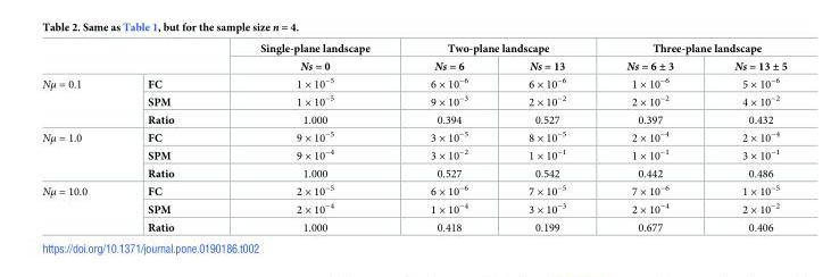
<table><thead><tr><td rowspan="2"></td><td rowspan="2"></td><td rowspan="2">Single-plane landscape Ns = 0</td><td colspan="2">Two-plane landscape</td><td colspan="2">Three-plane landscape</td></tr><tr><td>Ns = 6</td><td>Ns = 13</td><td>Ns = 6 ± 3</td><td>Ns = 13 ± 5</td></tr></thead><tbody><tr><td rowspan="3">Nμ = 0.1</td><td>FC</td><td>1 × 10<sup>−5</sup></td><td>6 × 10<sup>−6</sup></td><td>6 × 10<sup>−6</sup></td><td>1 × 10<sup>−6</sup></td><td>5 × 10<sup>−6</sup></td></tr><tr><td>SPM</td><td>1 × 10<sup>−5</sup></td><td>9 × 10<sup>−3</sup></td><td>2 × 10<sup>−2</sup></td><td>2 × 10<sup>−2</sup></td><td>4 × 10<sup>−2</sup></td></tr><tr><td>Ratio</td><td>1.000</td><td>0.394</td><td>0.527</td><td>0.397</td><td>0.432</td></tr><tr><td rowspan="3">Nμ = 1.0</td><td>FC</td><td>9 × 10<sup>−5</sup></td><td>3 × 10<sup>−5</sup></td><td>8 × 10<sup>−5</sup></td><td>2 × 10<sup>−4</sup></td><td>2 × 10<sup>−4</sup></td></tr><tr><td>SPM</td><td>9 × 10<sup>−4</sup></td><td>3 × 10<sup>−2</sup></td><td>1 × 10<sup>−1</sup></td><td>1 × 10<sup>−1</sup></td><td>3 × 10<sup>−1</sup></td></tr><tr><td>Ratio</td><td>1.000</td><td>0.527</td><td>0.542</td><td>0.442</td><td>0.486</td></tr><tr><td rowspan="3">Nμ = 10.0</td><td>FC</td><td>2 × 10<sup>−5</sup></td><td>6 × 10<sup>−6</sup></td><td>7 × 10<sup>−5</sup></td><td>7 × 10<sup>−6</sup></td><td>1 × 10<sup>−5</sup></td></tr><tr><td>SPM</td><td>2 × 10<sup>−4</sup></td><td>1 × 10<sup>−4</sup></td><td>3 × 10<sup>−3</sup></td><td>2 × 10<sup>−4</sup></td><td>2 × 10<sup>−2</sup></td></tr><tr><td>Ratio</td><td>1.000</td><td>0.418</td><td>0.199</td><td>0.677</td><td>0.406</td></tr></tbody></table>